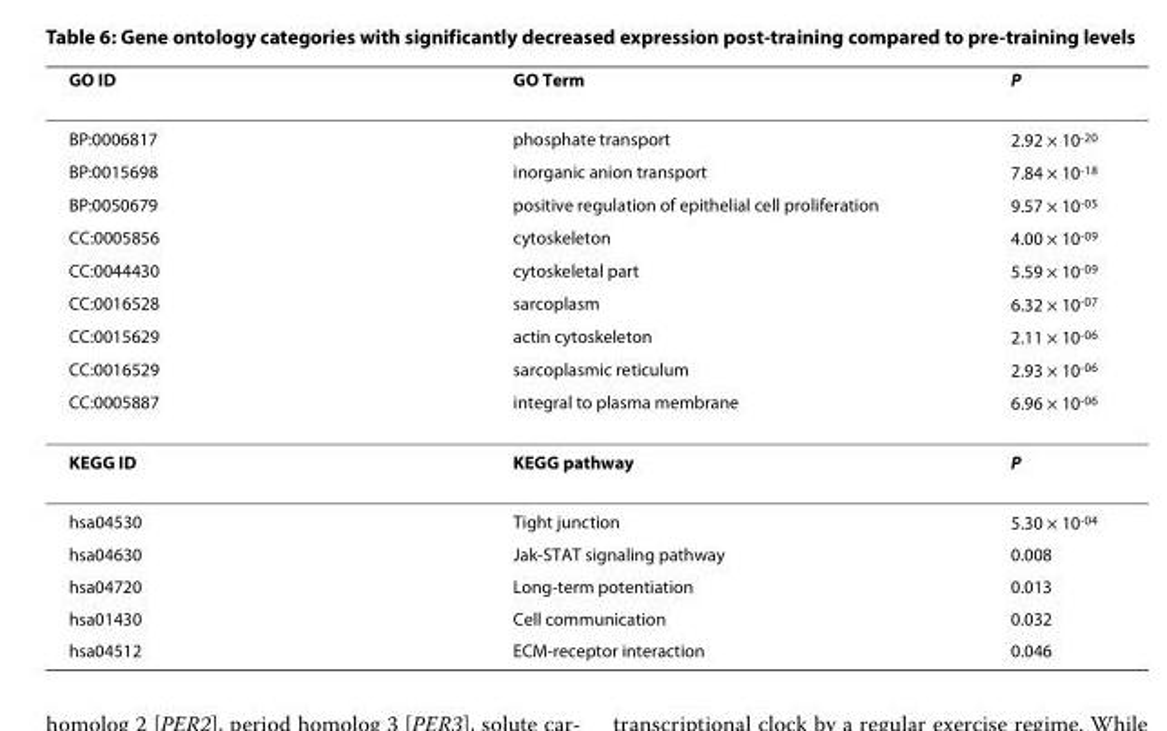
<table><thead><tr><td>GO ID</td><td>GO Term</td><td>P</td></tr></thead><tbody><tr><td>BP:0006817</td><td>phosphate transport</td><td>2.92 × 10<sup>-20</sup></td></tr><tr><td>BP:0015698</td><td>inorganic anion transport</td><td>7.84 × 10<sup>-18</sup></td></tr><tr><td>BP:0050679</td><td>positive regulation of epithelial cell proliferation</td><td>9.57 × 10<sup>-05</sup></td></tr><tr><td>CC:0005856</td><td>cytoskeleton</td><td>4.00 × 10<sup>-09</sup></td></tr><tr><td>CC:0044430</td><td>cytoskeletal part</td><td>5.59 × 10<sup>-09</sup></td></tr><tr><td>CC:0016528</td><td>sarcoplasm</td><td>6.32 × 10<sup>-07</sup></td></tr><tr><td>CC:0015629</td><td>actin cytoskeleton</td><td>2.11 × 10<sup>-06</sup></td></tr><tr><td>CC:0016529</td><td>sarcoplasmic reticulum</td><td>2.93 × 10<sup>-06</sup></td></tr><tr><td>CC:0005887</td><td>integral to plasma membrane</td><td>6.96 × 10<sup>-06</sup></td></tr><tr><td>KEGG ID</td><td>KEGG pathway</td><td>P</td></tr><tr><td>hsa04530</td><td>Tight junction</td><td>5.30 × 10<sup>-04</sup></td></tr><tr><td>hsa04630</td><td>Jak-STAT signaling pathway</td><td>0.008</td></tr><tr><td>hsa04720</td><td>Long-term potentiation</td><td>0.013</td></tr><tr><td>hsa01430</td><td>Cell communication</td><td>0.032</td></tr><tr><td>hsa04512</td><td>ECM-receptor interaction</td><td>0.046</td></tr></tbody></table>